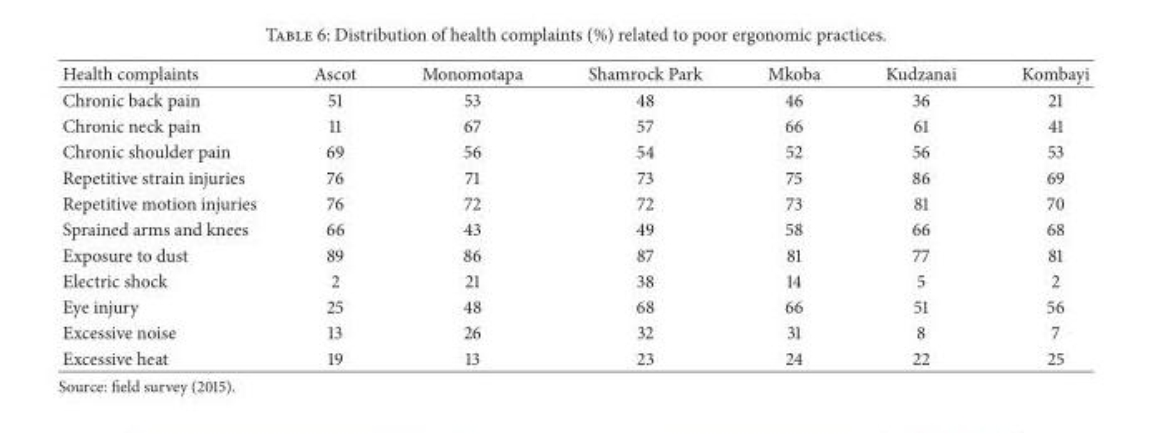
<table><thead><tr><td>Health complaints</td><td>Ascot</td><td>Monomotapa</td><td>Shamrock Park</td><td>Mkoba</td><td>Kudzanai</td><td>Kombayi</td></tr></thead><tbody><tr><td>Chronic back pain</td><td>51</td><td>53</td><td>48</td><td>46</td><td>36</td><td>21</td></tr><tr><td>Chronic neck pain</td><td>11</td><td>67</td><td>57</td><td>66</td><td>61</td><td>41</td></tr><tr><td>Chronic shoulder pain</td><td>69</td><td>56</td><td>54</td><td>52</td><td>56</td><td>53</td></tr><tr><td>Repetitive strain injuries</td><td>76</td><td>71</td><td>73</td><td>75</td><td>86</td><td>69</td></tr><tr><td>Repetitive motion injuries</td><td>76</td><td>72</td><td>72</td><td>73</td><td>81</td><td>70</td></tr><tr><td>Sprained arms and knees</td><td>66</td><td>43</td><td>49</td><td>58</td><td>66</td><td>68</td></tr><tr><td>Exposure to dust</td><td>89</td><td>86</td><td>87</td><td>81</td><td>77</td><td>81</td></tr><tr><td>Electric shock</td><td>2</td><td>21</td><td>38</td><td>14</td><td>5</td><td>2</td></tr><tr><td>Eye injury</td><td>25</td><td>48</td><td>68</td><td>66</td><td>51</td><td>56</td></tr><tr><td>Excessive noise</td><td>13</td><td>26</td><td>32</td><td>31</td><td>8</td><td>7</td></tr><tr><td>Excessive heat</td><td>19</td><td>13</td><td>23</td><td>24</td><td>22</td><td>25</td></tr></tbody></table>